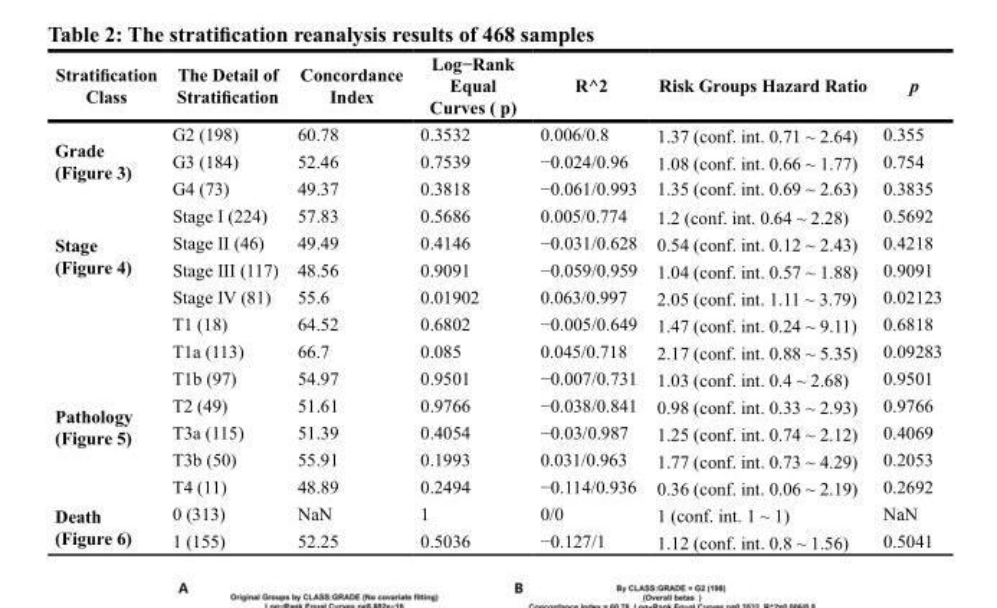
<table><thead><tr><td>Stratification Class</td><td>The Detail of Stratification</td><td>Concordance Index</td><td>Log−Rank Equal Curves ( p)</td><td>R^2</td><td>Risk Groups Hazard Ratio</td><td>p</td></tr></thead><tbody><tr><td rowspan="3">Grade (Figure 3)</td><td>G2 (198)</td><td>60.78</td><td>0.3532</td><td>0.006/0.8</td><td>1.37 (conf. int. 0.71 ~ 2.64)</td><td>0.355</td></tr><tr><td>G3 (184)</td><td>52.46</td><td>0.7539</td><td>−0.024/0.96</td><td>1.08 (conf. int. 0.66 ~ 1.77)</td><td>0.754</td></tr><tr><td>G4 (73)</td><td>49.37</td><td>0.3818</td><td>−0.061/0.993</td><td>1.35 (conf. int. 0.69 ~ 2.63)</td><td>0.3835</td></tr><tr><td rowspan="4">Stage (Figure 4)</td><td>Stage I (224)</td><td>57.83</td><td>0.5686</td><td>0.005/0.774</td><td>1.2 (conf. int. 0.64 ~ 2.28)</td><td>0.5692</td></tr><tr><td>Stage II (46)</td><td>49.49</td><td>0.4146</td><td>−0.031/0.628</td><td>0.54 (conf. int. 0.12 ~ 2.43)</td><td>0.4218</td></tr><tr><td>Stage III (117)</td><td>48.56</td><td>0.9091</td><td>−0.059/0.959</td><td>1.04 (conf. int. 0.57 ~ 1.88)</td><td>0.9091</td></tr><tr><td>Stage IV (81)</td><td>55.6</td><td>0.01902</td><td>0.063/0.997</td><td>2.05 (conf. int. 1.11 ~ 3.79)</td><td>0.02123</td></tr><tr><td rowspan="7">Pathology (Figure 5)</td><td>T1 (18)</td><td>64.52</td><td>0.6802</td><td>−0.005/0.649</td><td>1.47 (conf. int. 0.24 ~ 9.11)</td><td>0.6818</td></tr><tr><td>T1a (113)</td><td>66.7</td><td>0.085</td><td>0.045/0.718</td><td>2.17 (conf. int. 0.88 ~ 5.35)</td><td>0.09283</td></tr><tr><td>T1b (97)</td><td>54.97</td><td>0.9501</td><td>−0.007/0.731</td><td>1.03 (conf. int. 0.4 ~ 2.68)</td><td>0.9501</td></tr><tr><td>T2 (49)</td><td>51.61</td><td>0.9766</td><td>−0.038/0.841</td><td>0.98 (conf. int. 0.33 ~ 2.93)</td><td>0.9766</td></tr><tr><td>T3a (115)</td><td>51.39</td><td>0.4054</td><td>−0.03/0.987</td><td>1.25 (conf. int. 0.74 ~ 2.12)</td><td>0.4069</td></tr><tr><td>T3b (50)</td><td>55.91</td><td>0.1993</td><td>0.031/0.963</td><td>1.77 (conf. int. 0.73 ~ 4.29)</td><td>0.2053</td></tr><tr><td>T4 (11)</td><td>48.89</td><td>0.2494</td><td>−0.114/0.936</td><td>0.36 (conf. int. 0.06 ~ 2.19)</td><td>0.2692</td></tr><tr><td rowspan="2">Death (Figure 6)</td><td>0 (313)</td><td>NaN</td><td>1</td><td>0/0</td><td>1 (conf. int. 1 ~ 1)</td><td>NaN</td></tr><tr><td>1 (155)</td><td>52.25</td><td>0.5036</td><td>−0.127/1</td><td>1.12 (conf. int. 0.8 ~ 1.56)</td><td>0.5041</td></tr></tbody></table>